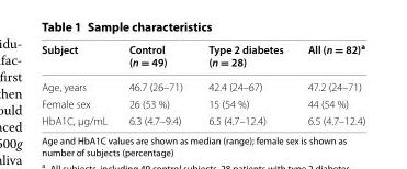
<table><thead><tr><td>Subject</td><td>Control (n = 49)</td><td>Type 2 diabetes (n = 28)</td><td>All (n = 82)<sup>a</sup></td></tr></thead><tbody><tr><td>Age, years</td><td>46.7 (26–71)</td><td>42.4 (24–67)</td><td>47.2 (24–71)</td></tr><tr><td>Female sex</td><td>26 (53 %)</td><td>15 (54 %)</td><td>44 (54 %)</td></tr><tr><td>HbA1C, µg/mL</td><td>6.3 (4.7–9.4)</td><td>6.5 (4.7–12.4)</td><td>6.5 (4.7–12.4)</td></tr></tbody></table>